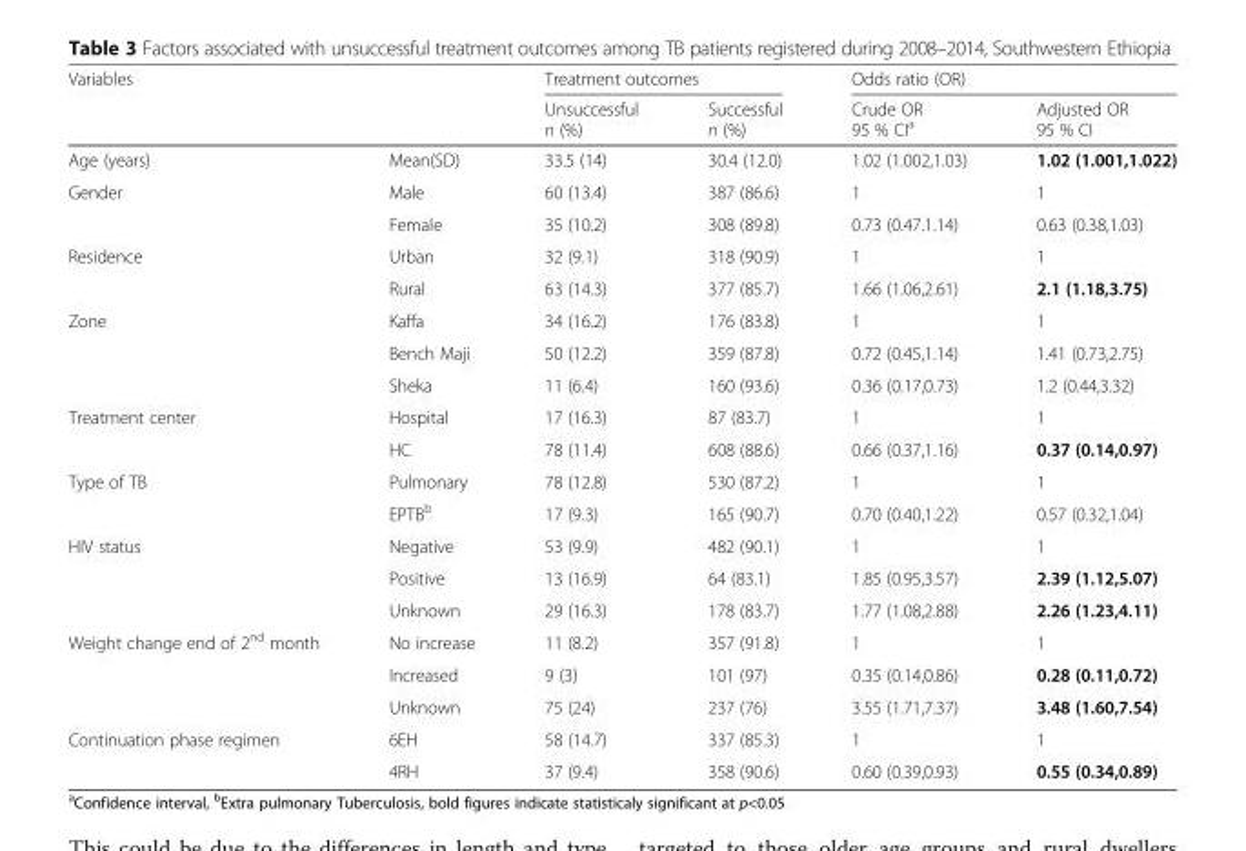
<table><thead><tr><td rowspan="2" colspan="2">Variables</td><td colspan="2">Treatment outcomes</td><td colspan="2">Odds ratio (OR)</td></tr><tr><td rowspan="2">Unsuccessful n (%) 33.5 (14)</td><td rowspan="2">Successful n (%) 30.4 (12.0)</td><td rowspan="2">Crude OR 95 % CI<sup>a</sup> 1.02 (1.002,1.03)</td><td rowspan="2">Adjusted OR 95 % CI 1.02 (1.001,1.022)</td></tr><tr><td>Age (years)</td><td>Mean(SD)</td></tr></thead><tbody><tr><td rowspan="2">Gender</td><td>Male</td><td>60 (13.4)</td><td>387 (86.6)</td><td>1</td><td>1</td></tr><tr><td>Female</td><td>35 (10.2)</td><td>308 (89.8)</td><td>0.73 (0.47.1.14)</td><td>0.63 (0.38,1.03)</td></tr><tr><td rowspan="2">Residence</td><td>Urban</td><td>32 (9.1)</td><td>318 (90.9)</td><td>1</td><td>1</td></tr><tr><td>Rural</td><td>63 (14.3)</td><td>377 (85.7)</td><td>1.66 (1.06,2.61)</td><td>2.1 (1.18,3.75)</td></tr><tr><td rowspan="3">Zone</td><td>Kaffa</td><td>34 (16.2)</td><td>176 (83.8)</td><td>1</td><td>1</td></tr><tr><td>Bench Maji</td><td>50 (12.2)</td><td>359 (87.8)</td><td>0.72 (0.45,1.14)</td><td>1.41 (0.73,2.75)</td></tr><tr><td>Sheka</td><td>11 (6.4)</td><td>160 (93.6)</td><td>0.36 (0.17,0.73)</td><td>1.2 (0.44,3.32)</td></tr><tr><td rowspan="2">Treatment center</td><td>Hospital</td><td>17 (16.3)</td><td>87 (83.7)</td><td>1</td><td>1</td></tr><tr><td>HC</td><td>78 (11.4)</td><td>608 (88.6)</td><td>0.66 (0.37,1.16)</td><td>0.37 (0.14,0.97)</td></tr><tr><td rowspan="2">Type of TB</td><td>Pulmonary</td><td>78 (12.8)</td><td>530 (87.2)</td><td>1</td><td>1</td></tr><tr><td>EPTB<sup>b</sup></td><td>17 (9.3)</td><td>165 (90.7)</td><td>0.70 (0.40,1.22)</td><td>0.57 (0.32,1.04)</td></tr><tr><td rowspan="3">HIV status</td><td>Negative</td><td>53 (9.9)</td><td>482 (90.1)</td><td>1</td><td>1</td></tr><tr><td>Positive</td><td>13 (16.9)</td><td>64 (83.1)</td><td>1.85 (0.95,3.57)</td><td>2.39 (1.12,5.07)</td></tr><tr><td>Unknown</td><td>29 (16.3)</td><td>178 (83.7)</td><td>1.77 (1.08,2.88)</td><td>2.26 (1.23,4.11)</td></tr><tr><td rowspan="3">Weight change end of 2<sup>nd</sup> month</td><td>No increase</td><td>11 (8.2)</td><td>357 (91.8)</td><td>1</td><td>1</td></tr><tr><td>Increased</td><td>9 (3)</td><td>101 (97)</td><td>0.35 (0.14,0.86)</td><td>0.28 (0.11,0.72)</td></tr><tr><td>Unknown</td><td>75 (24)</td><td>237 (76)</td><td>3.55 (1.71,7.37)</td><td>3.48 (1.60,7.54)</td></tr><tr><td rowspan="2">Continuation phase regimen</td><td>6EH</td><td>58 (14.7)</td><td>337 (85.3)</td><td>1</td><td>1</td></tr><tr><td>4RH</td><td>37 (9.4)</td><td>358 (90.6)</td><td>0.60 (0.39,0.93)</td><td>0.55 (0.34,0.89)</td></tr></tbody></table>